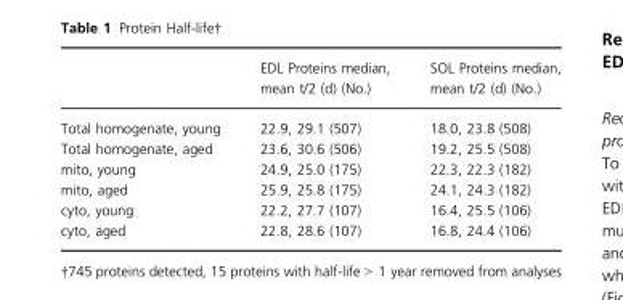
<table><thead><tr><td></td><td>EDL Proteins median, mean t/2 (d) (No.)</td><td>SOL Proteins median, mean t/2 (d) (No.)</td></tr></thead><tbody><tr><td>Total homogenate, young</td><td>22.9, 29.1 (507)</td><td>18.0, 23.8 (508)</td></tr><tr><td>Total homogenate, aged</td><td>23.6, 30.6 (506)</td><td>19.2, 25.5 (508)</td></tr><tr><td>mito, young</td><td>24.9, 25.0 (175)</td><td>22.3, 22.3 (182)</td></tr><tr><td>mito, aged</td><td>25.9, 25.8 (175)</td><td>24.1, 24.3 (182)</td></tr><tr><td>cyto, young</td><td>22.2, 27.7 (107)</td><td>16.4, 25.5 (106)</td></tr><tr><td>cyto, aged</td><td>22.8, 28.6 (107)</td><td>16.8, 24.4 (106)</td></tr></tbody></table>